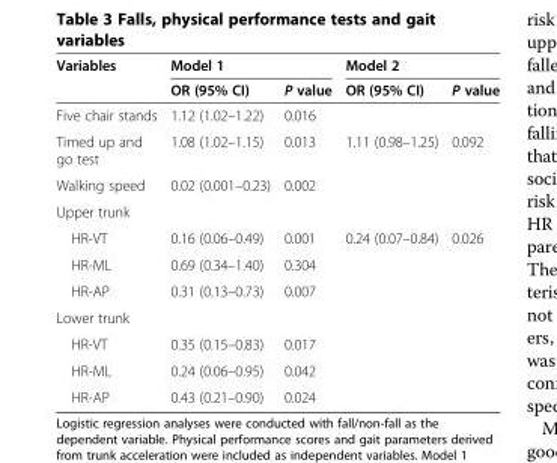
<table><thead><tr><td rowspan="2">Variables</td><td colspan="2">Model 1</td><td colspan="2">Model 2</td></tr><tr><td>OR (95% CI)</td><td>P value</td><td>OR (95% CI)</td><td>P value</td></tr></thead><tbody><tr><td>Five chair stands</td><td>1.12 (1.02–1.22)</td><td>0.016</td><td></td><td></td></tr><tr><td>Timed up and go test</td><td>1.08 (1.02–1.15)</td><td>0.013</td><td>1.11 (0.98–1.25)</td><td>0.092</td></tr><tr><td>Walking speed</td><td>0.02 (0.001–0.23)</td><td>0.002</td><td></td><td></td></tr><tr><td colspan="5">Upper trunk</td></tr><tr><td>HR-VT</td><td>0.16 (0.06–0.49)</td><td>0.001</td><td>0.24 (0.07–0.84)</td><td>0.026</td></tr><tr><td>HR-ML</td><td>0.69 (0.34–1.40)</td><td>0.304</td><td></td><td></td></tr><tr><td>HR-AP</td><td>0.31 (0.13–0.73)</td><td>0.007</td><td></td><td></td></tr><tr><td colspan="5">Lower trunk</td></tr><tr><td>HR-VT</td><td>0.35 (0.15–0.83)</td><td>0.017</td><td></td><td></td></tr><tr><td>HR-ML</td><td>0.24 (0.06–0.95)</td><td>0.042</td><td></td><td></td></tr><tr><td>HR-AP</td><td>0.43 (0.21–0.90)</td><td>0.024</td><td></td><td></td></tr></tbody></table>